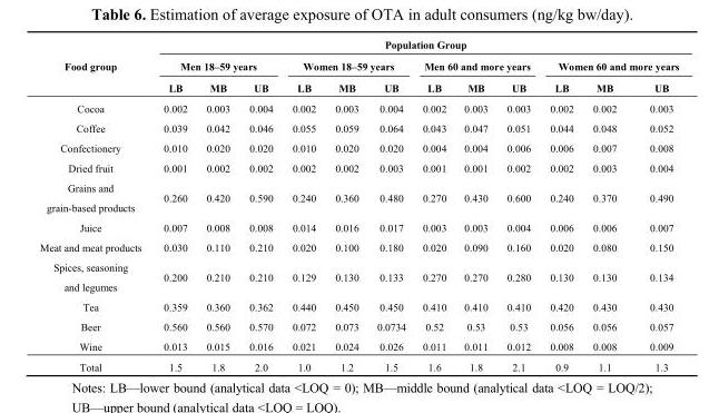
<table><thead><tr><td rowspan="3">Food group</td><td colspan="12">Population Group</td></tr><tr><td colspan="3">Men 18–59 years</td><td colspan="3">Women 18–59 years</td><td colspan="3">Men 60 and more years</td><td colspan="3">Women 60 and more years</td></tr><tr><td>LB</td><td>MB</td><td>UB</td><td>LB</td><td>MB</td><td>UB</td><td>LB</td><td>MB</td><td>UB</td><td>LB</td><td>MB</td><td>UB</td></tr></thead><tbody><tr><td>Cocoa</td><td>0.002</td><td>0.003</td><td>0.004</td><td>0.002</td><td>0.003</td><td>0.004</td><td>0.002</td><td>0.003</td><td>0.003</td><td>0.002</td><td>0.002</td><td>0.003</td></tr><tr><td>Coffee</td><td>0.039</td><td>0.042</td><td>0.046</td><td>0.055</td><td>0.059</td><td>0.064</td><td>0.043</td><td>0.047</td><td>0.051</td><td>0.044</td><td>0.048</td><td>0.052</td></tr><tr><td>Confectionery</td><td>0.010</td><td>0.020</td><td>0.020</td><td>0.010</td><td>0.020</td><td>0.020</td><td>0.004</td><td>0.004</td><td>0.006</td><td>0.006</td><td>0.007</td><td>0.008</td></tr><tr><td>Dried fruit</td><td>0.001</td><td>0.002</td><td>0.002</td><td>0.002</td><td>0.002</td><td>0.003</td><td>0.001</td><td>0.001</td><td>0.002</td><td>0.002</td><td>0.003</td><td>0.004</td></tr><tr><td>Grains and grain-based products</td><td>0.260</td><td>0.420</td><td>0.590</td><td>0.240</td><td>0.360</td><td>0.480</td><td>0.270</td><td>0.430</td><td>0.600</td><td>0.240</td><td>0.370</td><td>0.490</td></tr><tr><td>Juice</td><td>0.007</td><td>0.008</td><td>0.008</td><td>0.014</td><td>0.016</td><td>0.017</td><td>0.003</td><td>0.003</td><td>0.004</td><td>0.006</td><td>0.006</td><td>0.007</td></tr><tr><td>Meat and meat products</td><td>0.030</td><td>0.110</td><td>0.210</td><td>0.020</td><td>0.100</td><td>0.180</td><td>0.020</td><td>0.090</td><td>0.160</td><td>0.020</td><td>0.080</td><td>0.150</td></tr><tr><td>Spices, seasoning and legumes</td><td>0.200</td><td>0.210</td><td>0.210</td><td>0.129</td><td>0.130</td><td>0.133</td><td>0.270</td><td>0.270</td><td>0.280</td><td>0.130</td><td>0.130</td><td>0.134</td></tr><tr><td>Tea</td><td>0.359</td><td>0.360</td><td>0.362</td><td>0.440</td><td>0.450</td><td>0.450</td><td>0.410</td><td>0.410</td><td>0.410</td><td>0.420</td><td>0.430</td><td>0.430</td></tr><tr><td>Beer</td><td>0.560</td><td>0.560</td><td>0.570</td><td>0.072</td><td>0.073</td><td>0.0734</td><td>0.52</td><td>0.53</td><td>0.53</td><td>0.056</td><td>0.056</td><td>0.057</td></tr><tr><td>Wine</td><td>0.013</td><td>0.015</td><td>0.016</td><td>0.021</td><td>0.024</td><td>0.026</td><td>0.011</td><td>0.011</td><td>0.012</td><td>0.008</td><td>0.008</td><td>0.009</td></tr><tr><td>Total</td><td>1.5</td><td>1.8</td><td>2.0</td><td>1.0</td><td>1.2</td><td>1.5</td><td>1.6</td><td>1.8</td><td>2.1</td><td>0.9</td><td>1.1</td><td>1.3</td></tr></tbody></table>